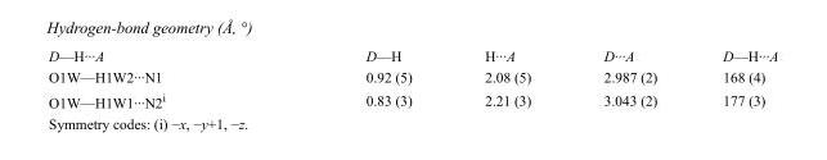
<table><tbody><tr><td>D—H···A</td><td>D—H</td><td>H···A</td><td>D···A</td><td>D—H···A</td></tr><tr><td>O1W—H1W2···N1</td><td>0.92 (5)</td><td>2.08 (5)</td><td>2.987 (2)</td><td>168 (4)</td></tr><tr><td>O1W—H1W1···N2<sup>i</sup></td><td>0.83 (3)</td><td>2.21 (3)</td><td>3.043 (2)</td><td>177 (3)</td></tr></tbody></table>